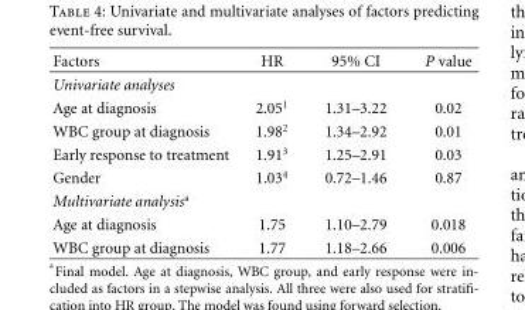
<table><thead><tr><td>Factors</td><td>HR</td><td>95% CI</td><td>P value</td></tr></thead><tbody><tr><td colspan="4">Univariate analyses</td></tr><tr><td>Age at diagnosis</td><td>2.05<sup>1</sup></td><td>1.31–3.22</td><td>0.02</td></tr><tr><td>WBC group at diagnosis</td><td>1.98<sup>2</sup></td><td>1.34–2.92</td><td>0.01</td></tr><tr><td>Early response to treatment</td><td>1.91<sup>3</sup></td><td>1.25–2.91</td><td>0.03</td></tr><tr><td>Gender</td><td>1.03<sup>4</sup></td><td>0.72–1.46</td><td>0.87</td></tr><tr><td colspan="4">Multivariate analysis<sup>a</sup></td></tr><tr><td>Age at diagnosis</td><td>1.75</td><td>1.10–2.79</td><td>0.018</td></tr><tr><td>WBC group at diagnosis</td><td>1.77</td><td>1.18–2.66</td><td>0.006</td></tr></tbody></table>